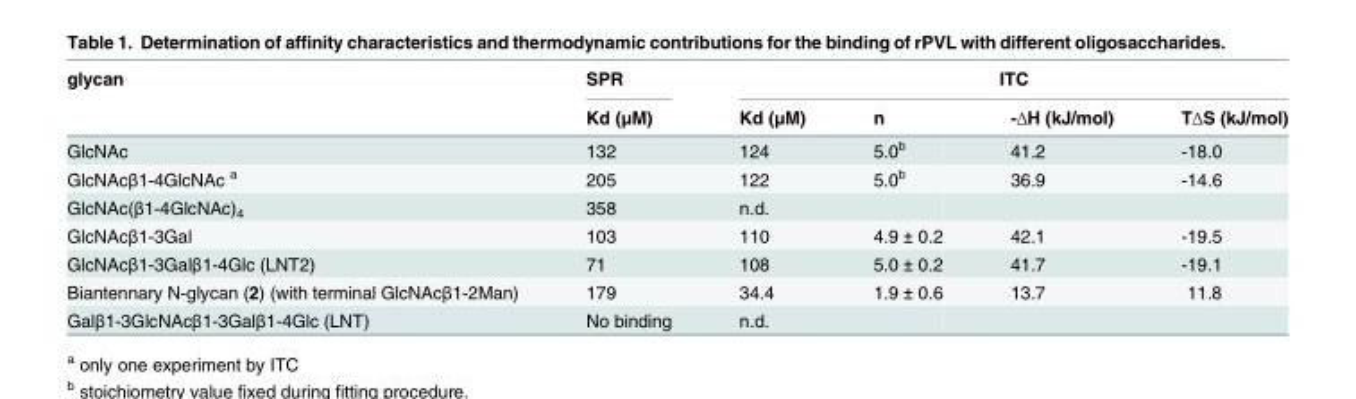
<table><thead><tr><td rowspan="2">glycan</td><td rowspan="2">SPR Kd (μM)</td><td colspan="4">ITC</td></tr><tr><td>Kd (μM)</td><td>n</td><td>-ΔH (kJ/mol)</td><td>TΔS (kJ/mol)</td></tr></thead><tbody><tr><td>GlcNAc</td><td>132</td><td>124</td><td>5.0<sup>b</sup></td><td>41.2</td><td>-18.0</td></tr><tr><td>GlcNAcβ1-4GlcNAc <sup>a</sup></td><td>205</td><td>122</td><td>5.0<sup>b</sup></td><td>36.9</td><td>-14.6</td></tr><tr><td>GlcNAc(β1-4GlcNAc)<sub>4</sub></td><td>358</td><td>n.d.</td><td></td><td></td><td></td></tr><tr><td>GlcNAcβ1-3Gal</td><td>103</td><td>110</td><td>4.9 ± 0.2</td><td>42.1</td><td>-19.5</td></tr><tr><td>GlcNAcβ1-3Galβ1-4Glc (LNT2)</td><td>71</td><td>108</td><td>5.0 ± 0.2</td><td>41.7</td><td>-19.1</td></tr><tr><td>Biantennary N-glycan (2) (with terminal GlcNAcβ1-2Man)</td><td>179</td><td>34.4</td><td>1.9 ± 0.6</td><td>13.7</td><td>11.8</td></tr><tr><td>Galβ1-3GlcNAcβ1-3Galβ1-4Glc (LNT)</td><td>No binding</td><td>n.d.</td><td></td><td></td><td></td></tr></tbody></table>